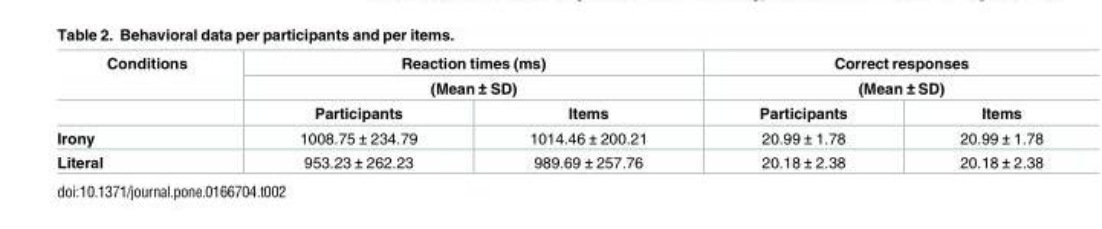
<table><thead><tr><td rowspan="3">Conditions</td><td rowspan="2" colspan="2">Reaction times (ms) (Mean ± SD)</td><td rowspan="2" colspan="2">Correct responses (Mean ± SD)</td></tr><tr></tr><tr><td>Participants</td><td>Items</td><td>Participants</td><td>Items</td></tr></thead><tbody><tr><td>Irony</td><td>1008.75 ± 234.79</td><td>1014.46 ± 200.21</td><td>20.99 ± 1.78</td><td>20.99 ± 1.78</td></tr><tr><td>Literal</td><td>953.23 ± 262.23</td><td>989.69 ± 257.76</td><td>20.18 ± 2.38</td><td>20.18 ± 2.38</td></tr></tbody></table>